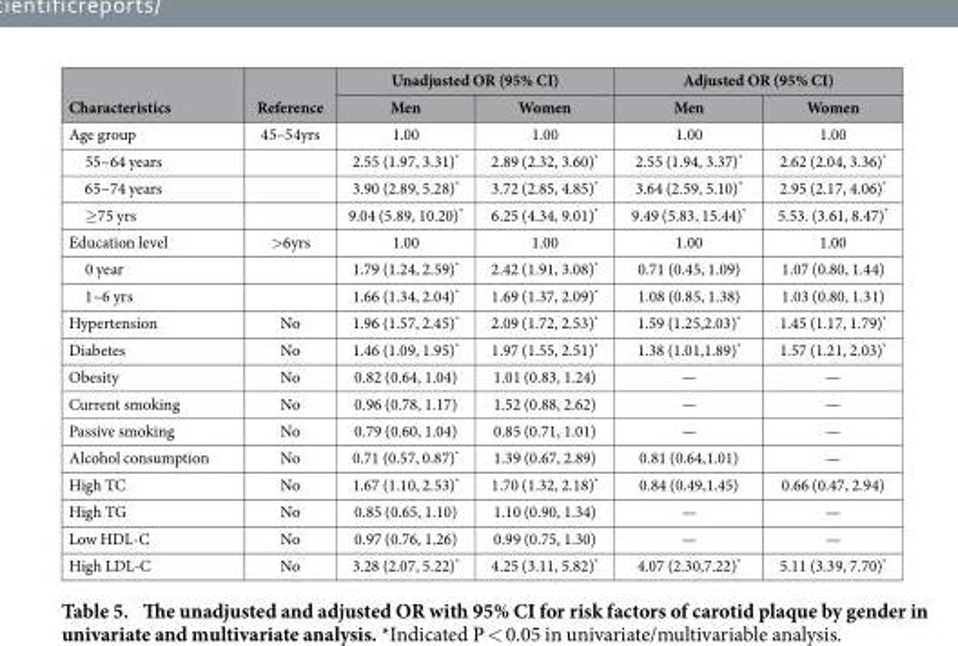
<table><thead><tr><td rowspan="2">Characteristics</td><td rowspan="2">Reference</td><td colspan="2">Unadjusted OR (95% CI)</td><td colspan="2">Adjusted OR (95% CI)</td></tr><tr><td>Men</td><td>Women</td><td>Men</td><td>Women</td></tr></thead><tbody><tr><td>Age group</td><td>45–54yrs</td><td>1.00</td><td>1.00</td><td>1.00</td><td>1.00</td></tr><tr><td>55~64 years</td><td></td><td>2.55 (1.97, 3.31)*</td><td>2.89 (2.32, 3.60)*</td><td>2.55 (1.94, 3.37)*</td><td>2.62 (2.04, 3.36)*</td></tr><tr><td>65~74 years</td><td></td><td>3.90 (2.89, 5.28)*</td><td>3.72 (2.85, 4.85)*</td><td>3.64 (2.59, 5.10)*</td><td>2.95 (2.17, 4.06)*</td></tr><tr><td>≥ 75 yrs</td><td></td><td>9.04 (5.89, 10.20)*</td><td>6.25 (4.34, 9.01)*</td><td>9.49 (5.83, 15.44)*</td><td>5.53. (3.61, 8.47)*</td></tr><tr><td>Education level</td><td>&gt; 6yrs</td><td>1.00</td><td>1.00</td><td>1.00</td><td>1.00</td></tr><tr><td>0 year</td><td></td><td>1.79 (1.24, 2.59)*</td><td>2.42 (1.91, 3.08)*</td><td>0.71 (0.45, 1.09)</td><td>1.07 (0.80, 1.44)</td></tr><tr><td>1~6 yrs</td><td></td><td>1.66 (1.34, 2.04)*</td><td>1.69 (1.37, 2.09)*</td><td>1.08 (0.85, 1.38)</td><td>1.03 (0.80, 1.31)</td></tr><tr><td>Hypertension</td><td>No</td><td>1.96 (1.57, 2.45)*</td><td>2.09 (1.72, 2.53)*</td><td>1.59 (1.25,2.03)*</td><td>1.45 (1.17, 1.79)*</td></tr><tr><td>Diabetes</td><td>No</td><td>1.46 (1.09, 1.95)*</td><td>1.97 (1.55, 2.51)*</td><td>1.38 (1.01,1.89)*</td><td>1.57 (1.21, 2.03)*</td></tr><tr><td>Obesity</td><td>No</td><td>0.82 (0.64, 1.04)</td><td>1.01 (0.83, 1.24)</td><td>—</td><td>—</td></tr><tr><td>Current smoking</td><td>No</td><td>0.96 (0.78, 1.17)</td><td>1.52 (0.88, 2.62)</td><td>—</td><td>—</td></tr><tr><td>Passive smoking</td><td>No</td><td>0.79 (0.60, 1.04)</td><td>0.85 (0.71, 1.01)</td><td>—</td><td>—</td></tr><tr><td>Alcohol consumption</td><td>No</td><td>0.71 (0.57, 0.87)*</td><td>1.39 (0.67, 2.89)</td><td>0.81 (0.64,1.01)</td><td>—</td></tr><tr><td>High TC</td><td>No</td><td>1.67 (1.10, 2.53)*</td><td>1.70 (1.32, 2.18)*</td><td>0.84 (0.49,1.45)</td><td>0.66 (0.47, 2.94)</td></tr><tr><td>High TG</td><td>No</td><td>0.85 (0.65, 1.10)</td><td>1.10 (0.90, 1.34)</td><td>—</td><td>—</td></tr><tr><td>Low HDL-C</td><td>No</td><td>0.97 (0.76, 1.26)</td><td>0.99 (0.75, 1.30)</td><td>—</td><td>—</td></tr><tr><td>High LDL-C</td><td>No</td><td>3.28 (2.07, 5.22)*</td><td>4.25 (3.11, 5.82)*</td><td>4.07 (2.30,7.22)*</td><td>5.11 (3.39, 7.70)*</td></tr></tbody></table>